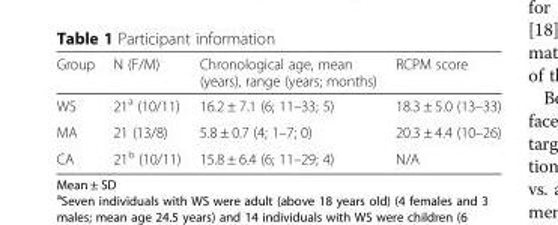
<table><thead><tr><td>Group</td><td>N (F/M)</td><td>Chronological age, mean (years), range (years; months)</td><td>RCPM score</td></tr></thead><tbody><tr><td>WS</td><td>21<sup>a</sup> (10/11)</td><td>16.2 ± 7.1 (6; 11–33; 5)</td><td>18.3 ± 5.0 (13–33)</td></tr><tr><td>MA</td><td>21 (13/8)</td><td>5.8 ± 0.7 (4; 1–7; 0)</td><td>20.3 ± 4.4 (10–26)</td></tr><tr><td>CA</td><td>21<sup>b</sup> (10/11)</td><td>15.8 ± 6.4 (6; 11–29; 4)</td><td>N/A</td></tr></tbody></table>